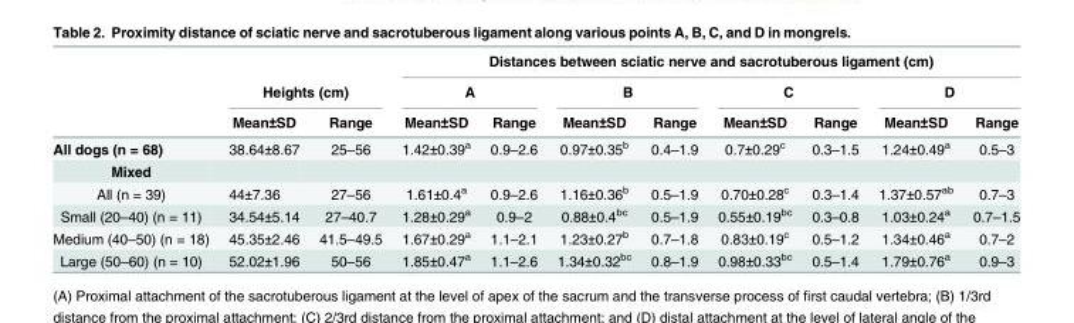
<table><thead><tr><td rowspan="3"></td><td></td><td></td><td colspan="8">Distances between sciatic nerve and sacrotuberous ligament (cm)</td></tr><tr><td colspan="2">Heights (cm)</td><td colspan="2">A</td><td colspan="2">B</td><td colspan="2">C</td><td colspan="2">D</td></tr><tr><td>Mean±SD</td><td>Range</td><td>Mean±SD</td><td>Range</td><td>Mean±SD</td><td>Range</td><td>Mean±SD</td><td>Range</td><td>Mean±SD</td><td>Range</td></tr></thead><tbody><tr><td>All dogs (n = 68)</td><td>38.64±8.67</td><td>25–56</td><td>1.42±0.39<sup>a</sup></td><td>0.9–2.6</td><td>0.97±0.35<sup>b</sup></td><td>0.4–1.9</td><td>0.7±0.29<sup>c</sup></td><td>0.3–1.5</td><td>1.24±0.49<sup>a</sup></td><td>0.5–3</td></tr><tr><td colspan="11">Mixed</td></tr><tr><td>All (n = 39)</td><td>44±7.36</td><td>27–56</td><td>1.61±0.4<sup>a</sup></td><td>0.9–2.6</td><td>1.16±0.36<sup>b</sup></td><td>0.5–1.9</td><td>0.70±0.28<sup>c</sup></td><td>0.3–1.4</td><td>1.37±0.57<sup>ab</sup></td><td>0.7–3</td></tr><tr><td>Small (20–40) (n = 11)</td><td>34.54±5.14</td><td>27–40.7</td><td>1.28±0.29<sup>a</sup></td><td>0.9–2</td><td>0.88±0.4<sup>bc</sup></td><td>0.5–1.9</td><td>0.55±0.19<sup>bc</sup></td><td>0.3–0.8</td><td>1.03±0.24<sup>a</sup></td><td>0.7–1.5</td></tr><tr><td>Medium (40–50) (n = 18)</td><td>45.35±2.46</td><td>41.5–49.5</td><td>1.67±0.29<sup>a</sup></td><td>1.1–2.1</td><td>1.23±0.27<sup>b</sup></td><td>0.7–1.8</td><td>0.83±0.19<sup>c</sup></td><td>0.5–1.2</td><td>1.34±0.46<sup>a</sup></td><td>0.7–2</td></tr><tr><td>Large (50–60) (n = 10)</td><td>52.02±1.96</td><td>50–56</td><td>1.85±0.47<sup>a</sup></td><td>1.1–2.6</td><td>1.34±0.32<sup>bc</sup></td><td>0.8–1.9</td><td>0.98±0.33<sup>bc</sup></td><td>0.5–1.4</td><td>1.79±0.76<sup>a</sup></td><td>0.9–3</td></tr></tbody></table>